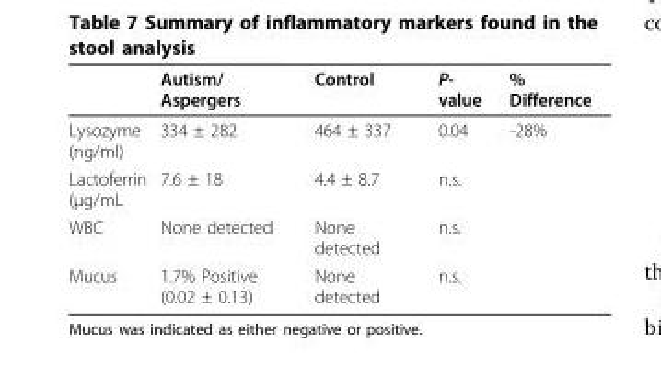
<table><thead><tr><td></td><td>Autism/ Aspergers</td><td>Control</td><td>P- value</td><td>% Difference</td></tr></thead><tbody><tr><td>Lysozyme (ng/ml)</td><td>334 ± 282</td><td>464 ± 337</td><td>0.04</td><td>-28%</td></tr><tr><td>Lactoferrin (μg/mL</td><td>7.6 ± 18</td><td>4.4 ± 8.7</td><td>n.s.</td><td></td></tr><tr><td>WBC</td><td>None detected</td><td>None detected</td><td>n.s.</td><td></td></tr><tr><td>Mucus</td><td>1.7% Positive (0.02 ± 0.13)</td><td>None detected</td><td>n.s.</td><td></td></tr></tbody></table>